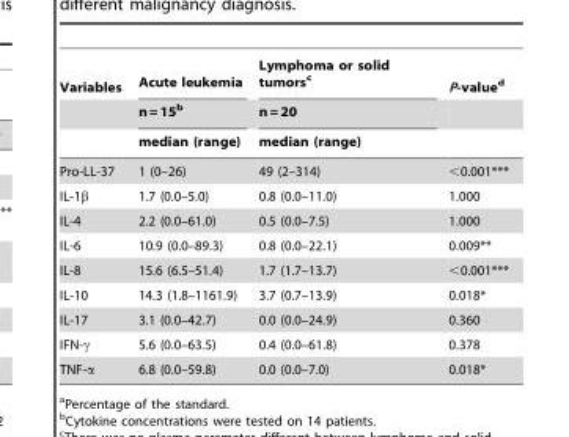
<table><thead><tr><td rowspan="3">Variables</td><td rowspan="3">Acute leukemia n = 15<sup>b</sup> median (range)</td><td rowspan="3">Lymphoma or solid tumors<sup>c</sup> n = 20 median (range)</td><td rowspan="3">P-value<sup>d</sup></td></tr><tr></tr><tr></tr></thead><tbody><tr><td>Pro-LL-37</td><td>1 (0–26)</td><td>49 (2–314)</td><td>&lt;0.001***</td></tr><tr><td>IL-1β</td><td>1.7 (0.0–5.0)</td><td>0.8 (0.0–11.0)</td><td>1.000</td></tr><tr><td>IL-4</td><td>2.2 (0.0–61.0)</td><td>0.5 (0.0–7.5)</td><td>1.000</td></tr><tr><td>IL-6</td><td>10.9 (0.0–89.3)</td><td>0.8 (0.0–22.1)</td><td>0.009**</td></tr><tr><td>IL-8</td><td>15.6 (6.5–51.4)</td><td>1.7 (1.7–13.7)</td><td>&lt;0.001***</td></tr><tr><td>IL-10</td><td>14.3 (1.8–1161.9)</td><td>3.7 (0.7–13.9)</td><td>0.018*</td></tr><tr><td>IL-17</td><td>3.1 (0.0–42.7)</td><td>0.0 (0.0–24.9)</td><td>0.360</td></tr><tr><td>IFN-γ</td><td>5.6 (0.0–63.5)</td><td>0.4 (0.0–61.8)</td><td>0.378</td></tr><tr><td>TNF-α</td><td>6.8 (0.0–59.8)</td><td>0.0 (0.0–7.0)</td><td>0.018*</td></tr></tbody></table>